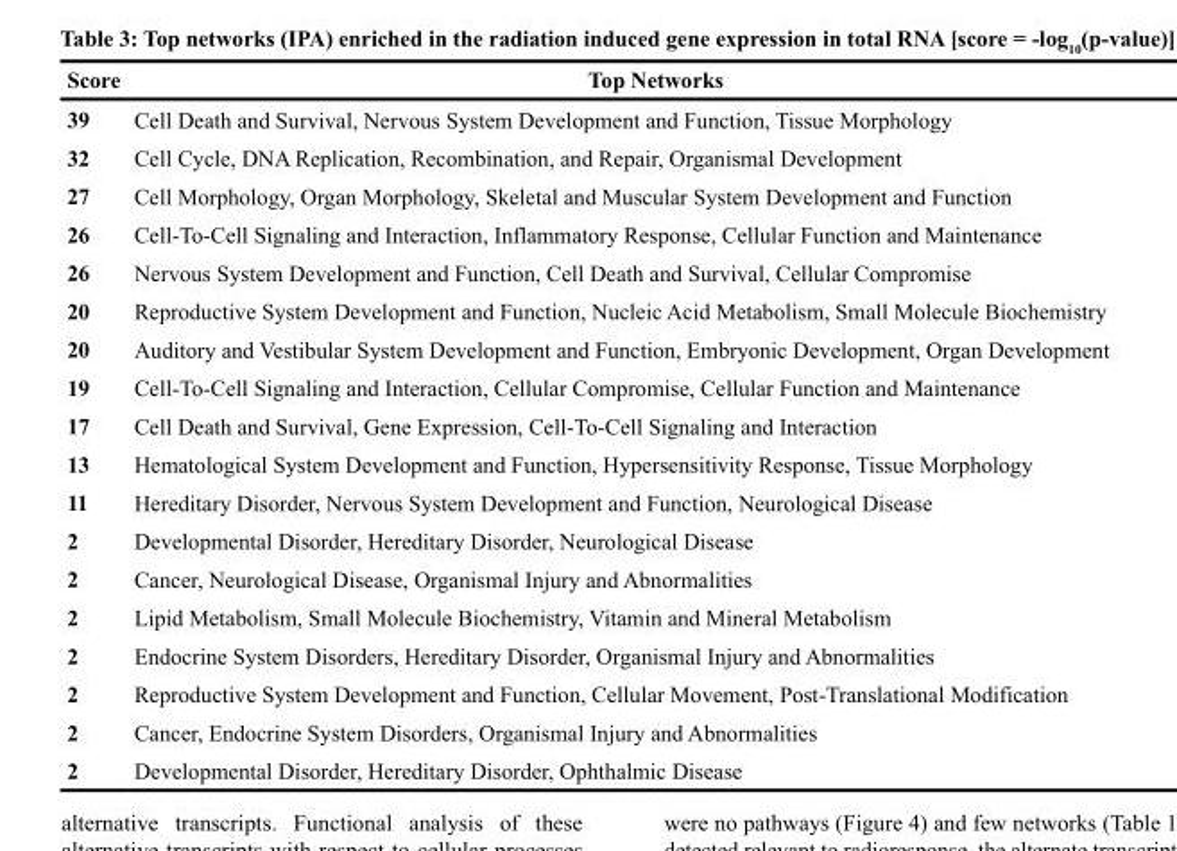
<table><thead><tr><td>Score</td><td>Top Networks</td></tr></thead><tbody><tr><td>39</td><td>Cell Death and Survival, Nervous System Development and Function, Tissue Morphology</td></tr><tr><td>32</td><td>Cell Cycle, DNA Replication, Recombination, and Repair, Organismal Development</td></tr><tr><td>27</td><td>Cell Morphology, Organ Morphology, Skeletal and Muscular System Development and Function</td></tr><tr><td>26</td><td>Cell-To-Cell Signaling and Interaction, Inflammatory Response, Cellular Function and Maintenance</td></tr><tr><td>26</td><td>Nervous System Development and Function, Cell Death and Survival, Cellular Compromise</td></tr><tr><td>20</td><td>Reproductive System Development and Function, Nucleic Acid Metabolism, Small Molecule Biochemistry</td></tr><tr><td>20</td><td>Auditory and Vestibular System Development and Function, Embryonic Development, Organ Development</td></tr><tr><td>19</td><td>Cell-To-Cell Signaling and Interaction, Cellular Compromise, Cellular Function and Maintenance</td></tr><tr><td>17</td><td>Cell Death and Survival, Gene Expression, Cell-To-Cell Signaling and Interaction</td></tr><tr><td>13</td><td>Hematological System Development and Function, Hypersensitivity Response, Tissue Morphology</td></tr><tr><td>11</td><td>Hereditary Disorder, Nervous System Development and Function, Neurological Disease</td></tr><tr><td>2</td><td>Developmental Disorder, Hereditary Disorder, Neurological Disease</td></tr><tr><td>2</td><td>Cancer, Neurological Disease, Organismal Injury and Abnormalities</td></tr><tr><td>2</td><td>Lipid Metabolism, Small Molecule Biochemistry, Vitamin and Mineral Metabolism</td></tr><tr><td>2</td><td>Endocrine System Disorders, Hereditary Disorder, Organismal Injury and Abnormalities</td></tr><tr><td>2</td><td>Reproductive System Development and Function, Cellular Movement, Post-Translational Modification</td></tr><tr><td>2</td><td>Cancer, Endocrine System Disorders, Organismal Injury and Abnormalities</td></tr><tr><td>2</td><td>Developmental Disorder, Hereditary Disorder, Ophthalmic Disease</td></tr></tbody></table>